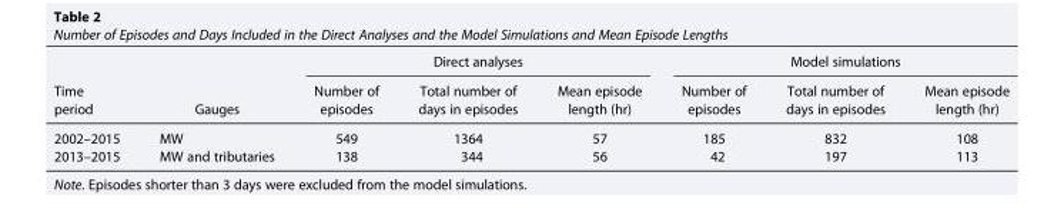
<table><thead><tr><td rowspan="2">Time period</td><td rowspan="2">Gauges</td><td colspan="3">Direct analyses</td><td colspan="3">Model simulations</td></tr><tr><td>Number of episodes</td><td>Total number of days in episodes</td><td>Mean episode length (hr)</td><td>Number of episodes</td><td>Total number of days in episodes</td><td>Mean episode length (hr)</td></tr></thead><tbody><tr><td>2002–2015</td><td>MW</td><td>549</td><td>1364</td><td>57</td><td>185</td><td>832</td><td>108</td></tr><tr><td>2013–2015</td><td>MW and tributaries</td><td>138</td><td>344</td><td>56</td><td>42</td><td>197</td><td>113</td></tr></tbody></table>